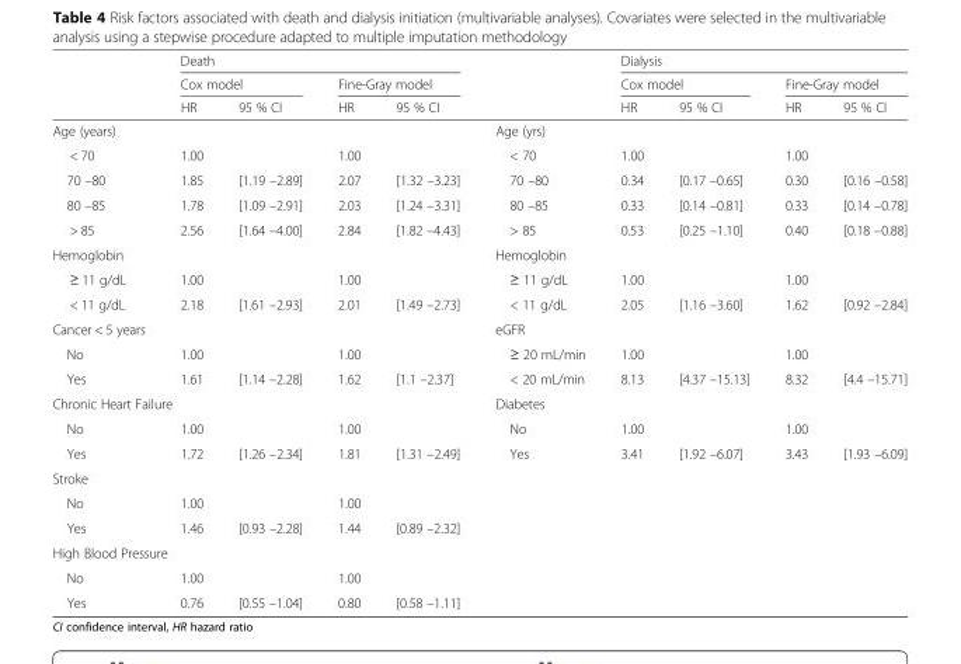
<table><thead><tr><td rowspan="3"></td><td colspan="4">Death</td><td rowspan="3"></td><td colspan="4">Dialysis</td></tr><tr><td colspan="2">Cox model</td><td colspan="2">Fine-Gray model</td><td colspan="2">Cox model</td><td colspan="2">Fine-Gray model</td></tr><tr><td>HR</td><td>95 % CI</td><td>HR</td><td>95 % CI</td><td>HR</td><td>95 % CI</td><td>HR</td><td>95 % CI</td></tr></thead><tbody><tr><td colspan="5">Age (years)</td><td colspan="5">Age (yrs)</td></tr><tr><td>&lt; 70</td><td>1.00</td><td></td><td>1.00</td><td></td><td>&lt; 70</td><td>1.00</td><td></td><td>1.00</td><td></td></tr><tr><td>70 –80</td><td>1.85</td><td>[1.19 –2.89]</td><td>2.07</td><td>[1.32 –3.23]</td><td>70 –80</td><td>0.34</td><td>[0.17 –0.65]</td><td>0.30</td><td>[0.16 –0.58]</td></tr><tr><td>80 –85</td><td>1.78</td><td>[1.09 –2.91]</td><td>2.03</td><td>[1.24 –3.31]</td><td>80 –85</td><td>0.33</td><td>[0.14 –0.81]</td><td>0.33</td><td>[0.14 –0.78]</td></tr><tr><td>&gt; 85</td><td>2.56</td><td>[1.64 –4.00]</td><td>2.84</td><td>[1.82 –4.43]</td><td>&gt; 85</td><td>0.53</td><td>[0.25 –1.10]</td><td>0.40</td><td>[0.18 –0.88]</td></tr><tr><td colspan="5">Hemoglobin</td><td colspan="5">Hemoglobin</td></tr><tr><td>≥ 11 g/dL</td><td>1.00</td><td></td><td>1.00</td><td></td><td>≥ 11 g/dL</td><td>1.00</td><td></td><td>1.00</td><td></td></tr><tr><td>&lt; 11 g/dL</td><td>2.18</td><td>[1.61 –2.93]</td><td>2.01</td><td>[1.49 –2.73]</td><td>&lt; 11 g/dL</td><td>2.05</td><td>[1.16 –3.60]</td><td>1.62</td><td>[0.92 –2.84]</td></tr><tr><td>Cancer &lt; 5 years</td><td></td><td></td><td></td><td></td><td>eGFR</td><td></td><td></td><td></td><td></td></tr><tr><td>No</td><td>1.00</td><td></td><td>1.00</td><td></td><td>≥ 20 mL/min</td><td>1.00</td><td></td><td>1.00</td><td></td></tr><tr><td>Yes</td><td>1.61</td><td>[1.14 –2.28]</td><td>1.62</td><td>[1.1 –2.37]</td><td>&lt; 20 mL/min</td><td>8.13</td><td>[4.37 –15.13]</td><td>8.32</td><td>[4.4 –15.71]</td></tr><tr><td colspan="5">Chronic Heart Failure</td><td colspan="5">Diabetes</td></tr><tr><td>No</td><td>1.00</td><td></td><td>1.00</td><td></td><td>No</td><td>1.00</td><td></td><td>1.00</td><td></td></tr><tr><td>Yes</td><td>1.72</td><td>[1.26 –2.34]</td><td>1.81</td><td>[1.31 –2.49]</td><td>Yes</td><td>3.41</td><td>[1.92 –6.07]</td><td>3.43</td><td>[1.93 –6.09]</td></tr><tr><td colspan="5">Stroke</td><td rowspan="6" colspan="5"></td></tr><tr><td>No</td><td>1.00</td><td></td><td>1.00</td><td></td></tr><tr><td>Yes</td><td>1.46</td><td>[0.93 –2.28]</td><td>1.44</td><td>[0.89 –2.32]</td></tr><tr><td colspan="5">High Blood Pressure</td></tr><tr><td>No</td><td>1.00</td><td></td><td>1.00</td><td></td></tr><tr><td>Yes</td><td>0.76</td><td>[0.55 –1.04]</td><td>0.80</td><td>[0.58 –1.11]</td></tr></tbody></table>